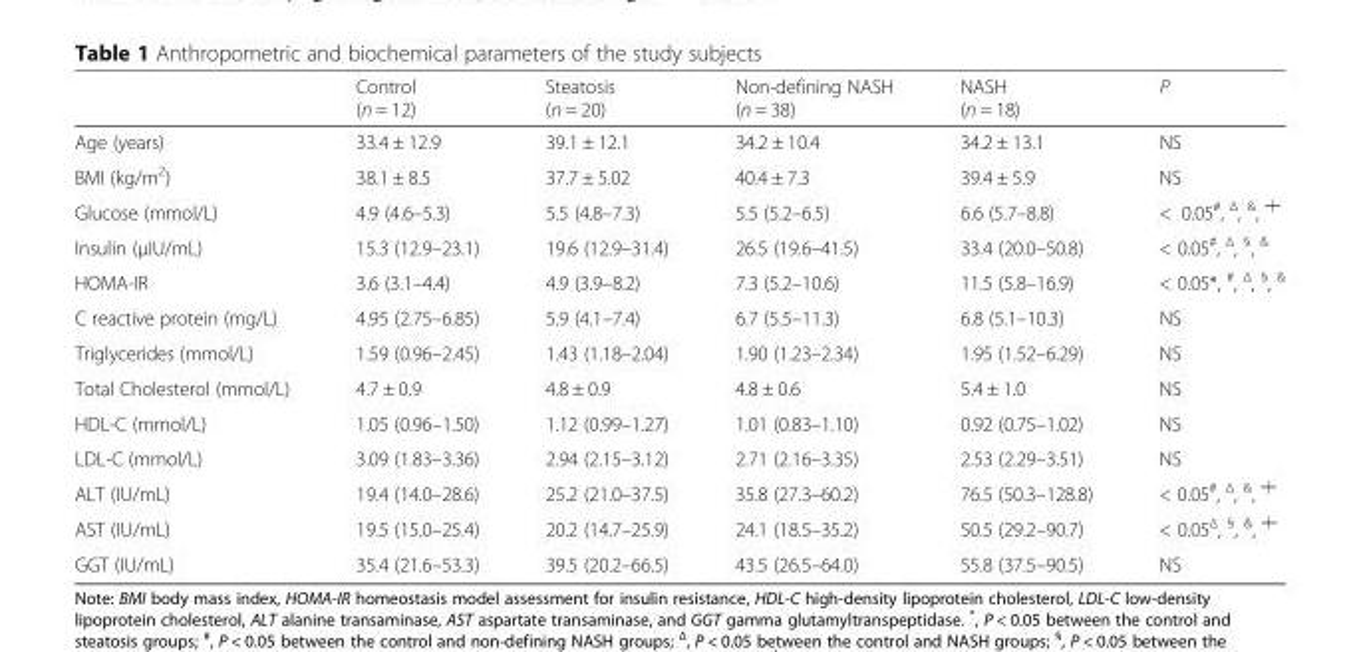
<table><thead><tr><td></td><td>Control (n = 12)</td><td>Steatosis (n = 20)</td><td>Non-defining NASH (n = 38)</td><td>NASH (n = 18)</td><td>P</td></tr></thead><tbody><tr><td>Age (years)</td><td>33.4 ± 12.9</td><td>39.1 ± 12.1</td><td>34.2 ± 10.4</td><td>34.2 ± 13.1</td><td>NS</td></tr><tr><td>BMI (kg/m<sup>2</sup>)</td><td>38.1 ± 8.5</td><td>37.7 ± 5.02</td><td>40.4 ± 7.3</td><td>39.4 ± 5.9</td><td>NS</td></tr><tr><td>Glucose (mmol/L)</td><td>4.9 (4.6–5.3)</td><td>5.5 (4.8–7.3)</td><td>5.5 (5.2–6.5)</td><td>6.6 (5.7–8.8)</td><td>&lt; 0.05#, Δ, &amp;, ╪</td></tr><tr><td>Insulin (μIU/mL)</td><td>15.3 (12.9–23.1)</td><td>19.6 (12.9–31.4)</td><td>26.5 (19.6–41.5)</td><td>33.4 (20.0–50.8)</td><td>&lt; 0.05#, Δ, §, &amp;</td></tr><tr><td>HOMA-IR</td><td>3.6 (3.1–4.4)</td><td>4.9 (3.9–8.2)</td><td>7.3 (5.2–10.6)</td><td>11.5 (5.8–16.9)</td><td>&lt; 0.05*, #, Δ, §, &amp;</td></tr><tr><td>C reactive protein (mg/L)</td><td>4.95 (2.75–6.85)</td><td>5.9 (4.1–7.4)</td><td>6.7 (5.5–11.3)</td><td>6.8 (5.1–10.3)</td><td>NS</td></tr><tr><td>Triglycerides (mmol/L)</td><td>1.59 (0.96–2.45)</td><td>1.43 (1.18–2.04)</td><td>1.90 (1.23–2.34)</td><td>1.95 (1.52–6.29)</td><td>NS</td></tr><tr><td>Total Cholesterol (mmol/L)</td><td>4.7 ± 0.9</td><td>4.8 ± 0.9</td><td>4.8 ± 0.6</td><td>5.4 ± 1.0</td><td>NS</td></tr><tr><td>HDL-C (mmol/L)</td><td>1.05 (0.96–1.50)</td><td>1.12 (0.99–1.27)</td><td>1.01 (0.83–1.10)</td><td>0.92 (0.75–1.02)</td><td>NS</td></tr><tr><td>LDL-C (mmol/L)</td><td>3.09 (1.83–3.36)</td><td>2.94 (2.15–3.12)</td><td>2.71 (2.16–3.35)</td><td>2.53 (2.29–3.51)</td><td>NS</td></tr><tr><td>ALT (IU/mL)</td><td>19.4 (14.0–28.6)</td><td>25.2 (21.0–37.5)</td><td>35.8 (27.3–60.2)</td><td>76.5 (50.3–128.8)</td><td>&lt; 0.05#, Δ, &amp;, ╪</td></tr><tr><td>AST (IU/mL)</td><td>19.5 (15.0–25.4)</td><td>20.2 (14.7–25.9)</td><td>24.1 (18.5–35.2)</td><td>50.5 (29.2–90.7)</td><td>&lt; 0.05Δ, §, &amp;, ╪</td></tr><tr><td>GGT (IU/mL)</td><td>35.4 (21.6–53.3)</td><td>39.5 (20.2–66.5)</td><td>43.5 (26.5–64.0)</td><td>55.8 (37.5–90.5)</td><td>NS</td></tr></tbody></table>